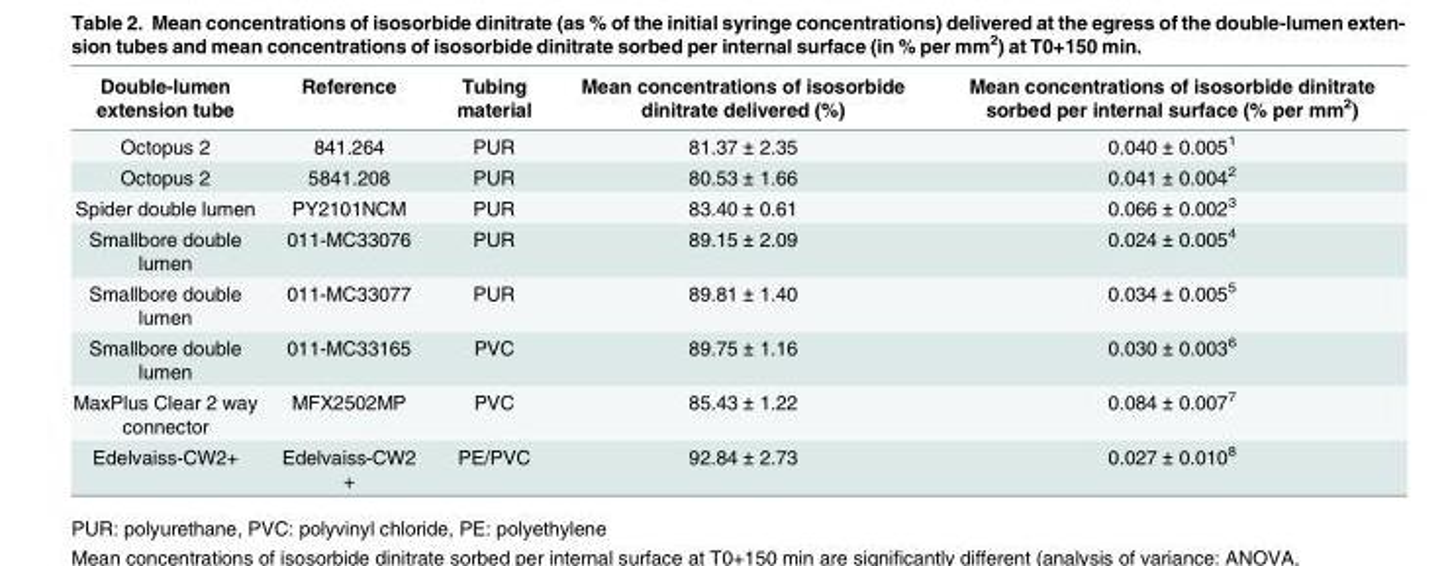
<table><thead><tr><td>Double-lumen extension tube</td><td>Reference</td><td>Tubing material</td><td>Mean concentrations of isosorbide dinitrate delivered (%)</td><td>Mean concentrations of isosorbide dinitrate sorbed per internal surface (% per mm<sup>2</sup>)</td></tr></thead><tbody><tr><td>Octopus 2</td><td>841.264</td><td>PUR</td><td>81.37 ± 2.35</td><td>0.040 ± 0.005<sup>1</sup></td></tr><tr><td>Octopus 2</td><td>5841.208</td><td>PUR</td><td>80.53 ± 1.66</td><td>0.041 ± 0.004<sup>2</sup></td></tr><tr><td>Spider double lumen</td><td>PY2101NCM</td><td>PUR</td><td>83.40 ± 0.61</td><td>0.066 ± 0.002<sup>3</sup></td></tr><tr><td>Smallbore double lumen</td><td>011-MC33076</td><td>PUR</td><td>89.15 ± 2.09</td><td>0.024 ± 0.005<sup>4</sup></td></tr><tr><td>Smallbore double lumen</td><td>011-MC33077</td><td>PUR</td><td>89.81 ± 1.40</td><td>0.034 ± 0.005<sup>5</sup></td></tr><tr><td>Smallbore double lumen</td><td>011-MC33165</td><td>PVC</td><td>89.75 ± 1.16</td><td>0.030 ± 0.003<sup>6</sup></td></tr><tr><td>MaxPlus Clear 2 way connector</td><td>MFX2502MP</td><td>PVC</td><td>85.43 ± 1.22</td><td>0.084 ± 0.007<sup>7</sup></td></tr><tr><td>Edelvaiss-CW2+</td><td>Edelvaiss-CW2 +</td><td>PE/PVC</td><td>92.84 ± 2.73</td><td>0.027 ± 0.010<sup>8</sup></td></tr></tbody></table>